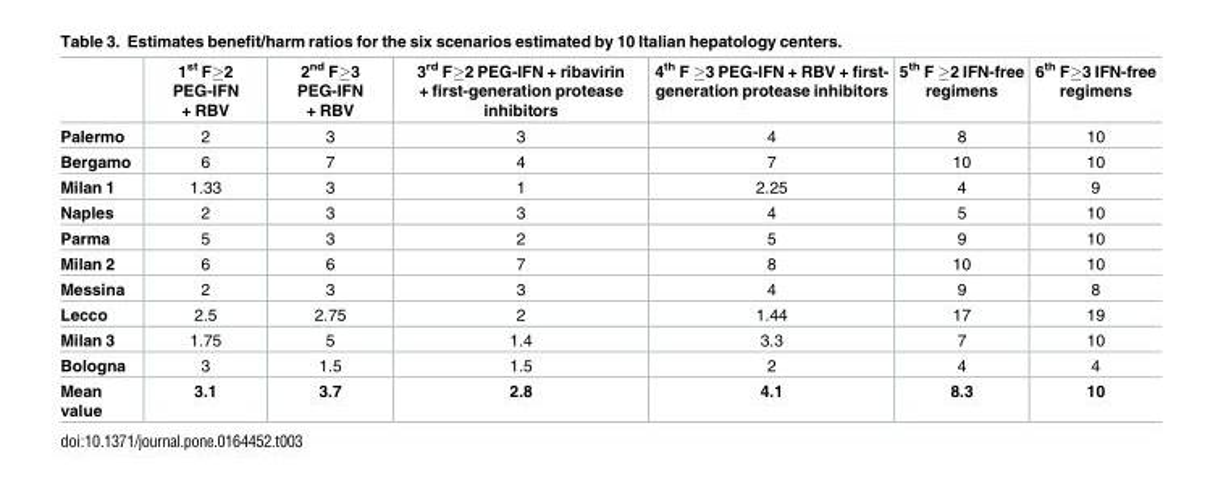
<table><thead><tr><td></td><td>1<sup>st</sup> F≥2 PEG-IFN + RBV</td><td>2<sup>nd</sup> F≥3 PEG-IFN + RBV</td><td>3<sup>rd</sup> F≥2 PEG-IFN + ribavirin + first-generation protease inhibitors</td><td>4<sup>th</sup> F ≥3 PEG-IFN + RBV + first- generation protease inhibitors</td><td>5<sup>th</sup> F ≥2 IFN-free regimens</td><td>6<sup>th</sup> F≥3 IFN-free regimens</td></tr></thead><tbody><tr><td>Palermo</td><td>2</td><td>3</td><td>3</td><td>4</td><td>8</td><td>10</td></tr><tr><td>Bergamo</td><td>6</td><td>7</td><td>4</td><td>7</td><td>10</td><td>10</td></tr><tr><td>Milan 1</td><td>1.33</td><td>3</td><td>1</td><td>2.25</td><td>4</td><td>9</td></tr><tr><td>Naples</td><td>2</td><td>3</td><td>3</td><td>4</td><td>5</td><td>10</td></tr><tr><td>Parma</td><td>5</td><td>3</td><td>2</td><td>5</td><td>9</td><td>10</td></tr><tr><td>Milan 2</td><td>6</td><td>6</td><td>7</td><td>8</td><td>10</td><td>10</td></tr><tr><td>Messina</td><td>2</td><td>3</td><td>3</td><td>4</td><td>9</td><td>8</td></tr><tr><td>Lecco</td><td>2.5</td><td>2.75</td><td>2</td><td>1.44</td><td>17</td><td>19</td></tr><tr><td>Milan 3</td><td>1.75</td><td>5</td><td>1.4</td><td>3.3</td><td>7</td><td>10</td></tr><tr><td>Bologna</td><td>3</td><td>1.5</td><td>1.5</td><td>2</td><td>4</td><td>4</td></tr><tr><td>Mean value</td><td>3.1</td><td>3.7</td><td>2.8</td><td>4.1</td><td>8.3</td><td>10</td></tr></tbody></table>